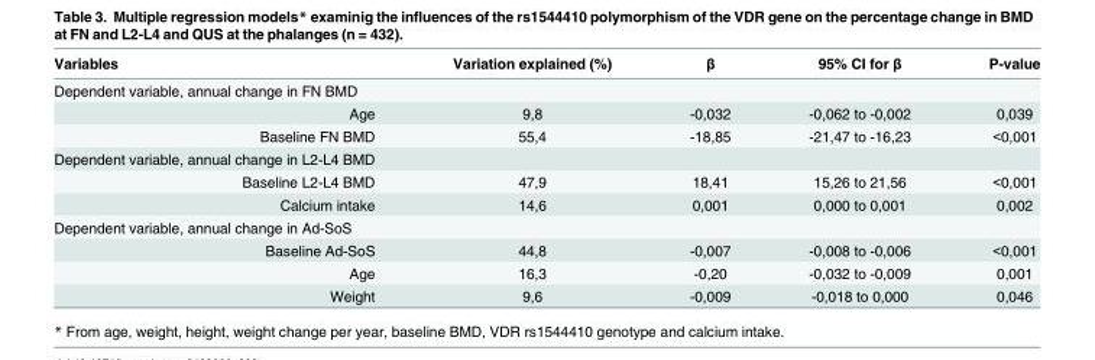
<table><thead><tr><td>Variables</td><td>Variation explained (%)</td><td>β</td><td>95% CI for β</td><td>P-value</td></tr></thead><tbody><tr><td colspan="5">Dependent variable, annual change in FN BMD</td></tr><tr><td>Age</td><td>9,8</td><td>-0,032</td><td>-0,062 to -0,002</td><td>0,039</td></tr><tr><td>Baseline FN BMD</td><td>55,4</td><td>-18,85</td><td>-21,47 to -16,23</td><td>&lt;0,001</td></tr><tr><td colspan="5">Dependent variable, annual change in L2-L4 BMD</td></tr><tr><td>Baseline L2-L4 BMD</td><td>47,9</td><td>18,41</td><td>15,26 to 21,56</td><td>&lt;0,001</td></tr><tr><td>Calcium intake</td><td>14,6</td><td>0,001</td><td>0,000 to 0,001</td><td>0,002</td></tr><tr><td colspan="5">Dependent variable, annual change in Ad-SoS</td></tr><tr><td>Baseline Ad-SoS</td><td>44,8</td><td>-0,007</td><td>-0,008 to -0,006</td><td>&lt;0,001</td></tr><tr><td>Age</td><td>16,3</td><td>-0,20</td><td>-0,032 to -0,009</td><td>0,001</td></tr><tr><td>Weight</td><td>9,6</td><td>-0,009</td><td>-0,018 to 0,000</td><td>0,046</td></tr></tbody></table>